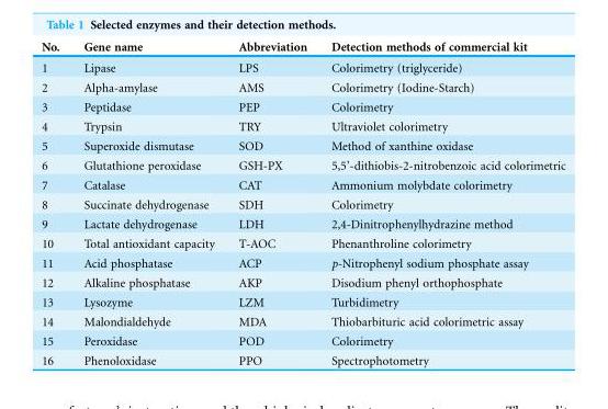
<table><thead><tr><td>No.</td><td>Gene name</td><td>Abbreviation</td><td>Detection methods of commercial kit</td></tr></thead><tbody><tr><td>1</td><td>Lipase</td><td>LPS</td><td>Colorimetry (triglyceride)</td></tr><tr><td>2</td><td>Alpha-amylase</td><td>AMS</td><td>Colorimetry (Iodine-Starch)</td></tr><tr><td>3</td><td>Peptidase</td><td>PEP</td><td>Colorimetry</td></tr><tr><td>4</td><td>Trypsin</td><td>TRY</td><td>Ultraviolet colorimetry</td></tr><tr><td>5</td><td>Superoxide dismutase</td><td>SOD</td><td>Method of xanthine oxidase</td></tr><tr><td>6</td><td>Glutathione peroxidase</td><td>GSH-PX</td><td>5,5’-dithiobis-2-nitrobenzoic acid colorimetric</td></tr><tr><td>7</td><td>Catalase</td><td>CAT</td><td>Ammonium molybdate colorimetry</td></tr><tr><td>8</td><td>Succinate dehydrogenase</td><td>SDH</td><td>Colorimetry</td></tr><tr><td>9</td><td>Lactate dehydrogenase</td><td>LDH</td><td>2,4-Dinitrophenylhydrazine method</td></tr><tr><td>10</td><td>Total antioxidant capacity</td><td>T-AOC</td><td>Phenanthroline colorimetry</td></tr><tr><td>11</td><td>Acid phosphatase</td><td>ACP</td><td>p-Nitrophenyl sodium phosphate assay</td></tr><tr><td>12</td><td>Alkaline phosphatase</td><td>AKP</td><td>Disodium phenyl orthophosphate</td></tr><tr><td>13</td><td>Lysozyme</td><td>LZM</td><td>Turbidimetry</td></tr><tr><td>14</td><td>Malondialdehyde</td><td>MDA</td><td>Thiobarbituric acid colorimetric assay</td></tr><tr><td>15</td><td>Peroxidase</td><td>POD</td><td>Colorimetry</td></tr><tr><td>16</td><td>Phenoloxidase</td><td>PPO</td><td>Spectrophotometry</td></tr></tbody></table>